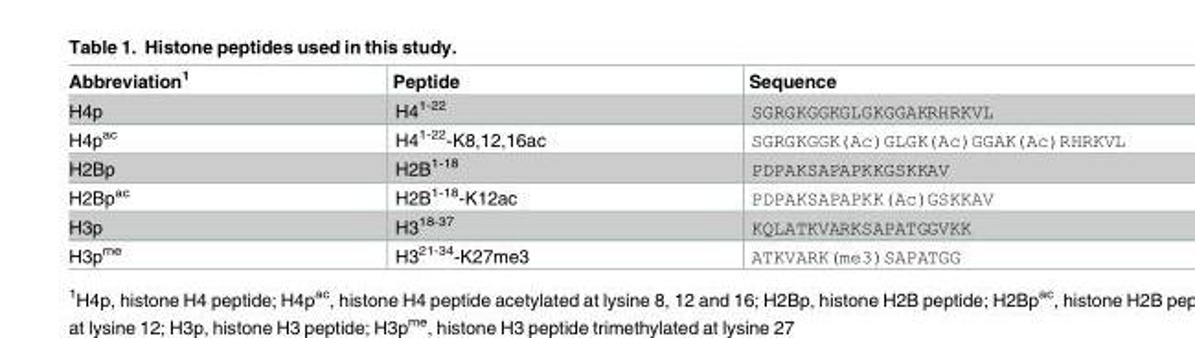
<table><thead><tr><td>Abbreviation<sup>1</sup></td><td>Peptide</td><td>Sequence</td></tr></thead><tbody><tr><td>H4p</td><td>H4<sup>1-22</sup></td><td>SGRGKGGKGLGKGGAKRHRKVL</td></tr><tr><td>H4p<sup>ac</sup></td><td>H4<sup>1-22</sup>-K8,12,16ac</td><td>SGRGKGGK(Ac)GLGK(Ac)GGAK(Ac)RHRKVL</td></tr><tr><td>H2Bp</td><td>H2B<sup>1-18</sup></td><td>PDPAKSAPAPKKGSKKAV</td></tr><tr><td>H2Bp<sup>ac</sup></td><td>H2B<sup>1-18</sup>-K12ac</td><td>PDPAKSAPAPKK(Ac)GSKKAV</td></tr><tr><td>H3p</td><td>H3<sup>18-37</sup></td><td>KQLATKVARKSAPATGGVKK</td></tr><tr><td>H3p<sup>me</sup></td><td>H3<sup>21-34</sup>-K27me3</td><td>ATKVARK(me3)SAPATGG</td></tr></tbody></table>